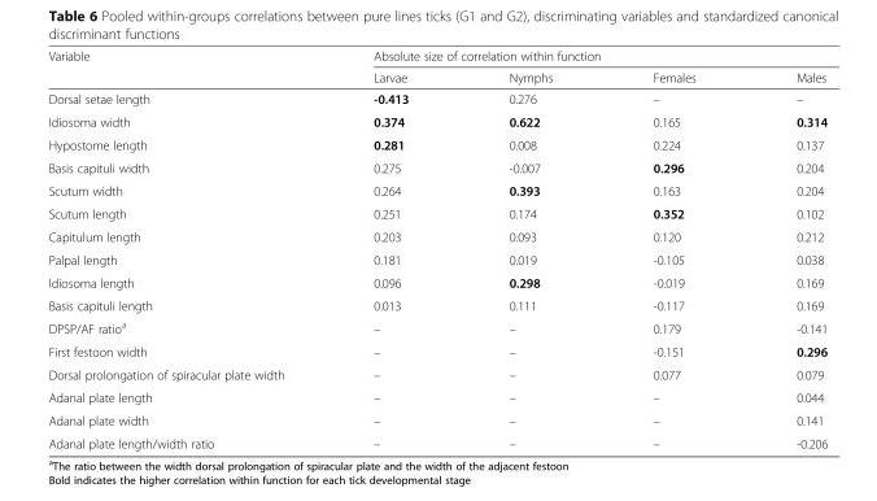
<table><thead><tr><td rowspan="2">Variable</td><td colspan="4">Absolute size of correlation within function</td></tr><tr><td>Larvae</td><td>Nymphs</td><td>Females</td><td>Males</td></tr></thead><tbody><tr><td>Dorsal setae length</td><td>-0.413</td><td>0.276</td><td>–</td><td>–</td></tr><tr><td>Idiosoma width</td><td>0.374</td><td>0.622</td><td>0.165</td><td>0.314</td></tr><tr><td>Hypostome length</td><td>0.281</td><td>0.008</td><td>0.224</td><td>0.137</td></tr><tr><td>Basis capituli width</td><td>0.275</td><td>-0.007</td><td>0.296</td><td>0.204</td></tr><tr><td>Scutum width</td><td>0.264</td><td>0.393</td><td>0.163</td><td>0.204</td></tr><tr><td>Scutum length</td><td>0.251</td><td>0.174</td><td>0.352</td><td>0.102</td></tr><tr><td>Capitulum length</td><td>0.203</td><td>0.093</td><td>0.120</td><td>0.212</td></tr><tr><td>Palpal length</td><td>0.181</td><td>0.019</td><td>-0.105</td><td>0.038</td></tr><tr><td>Idiosoma length</td><td>0.096</td><td>0.298</td><td>-0.019</td><td>0.169</td></tr><tr><td>Basis capituli length</td><td>0.013</td><td>0.111</td><td>-0.117</td><td>0.169</td></tr><tr><td>DPSP/AF ratio<sup>a</sup></td><td>–</td><td>–</td><td>0.179</td><td>-0.141</td></tr><tr><td>First festoon width</td><td>–</td><td>–</td><td>-0.151</td><td>0.296</td></tr><tr><td>Dorsal prolongation of spiracular plate width</td><td>–</td><td>–</td><td>0.077</td><td>0.079</td></tr><tr><td>Adanal plate length</td><td>–</td><td>–</td><td>–</td><td>0.044</td></tr><tr><td>Adanal plate width</td><td>–</td><td>–</td><td>–</td><td>0.141</td></tr><tr><td>Adanal plate length/width ratio</td><td>–</td><td>–</td><td>–</td><td>-0.206</td></tr></tbody></table>